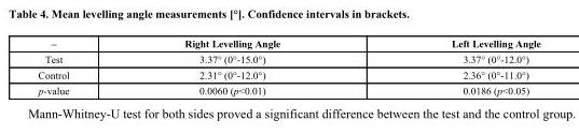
<table><thead><tr><td>–</td><td>Right Levelling Angle</td><td>Left Levelling Angle</td></tr></thead><tbody><tr><td>Test</td><td>3.37° (0°-15.0°)</td><td>3.37° (0°-12.0°)</td></tr><tr><td>Control</td><td>2.31° (0°-12.0°)</td><td>2.36° (0°-11.0°)</td></tr><tr><td>p-value</td><td>0.0060 (p&lt;0.01)</td><td>0.0186 (p&lt;0.05)</td></tr></tbody></table>